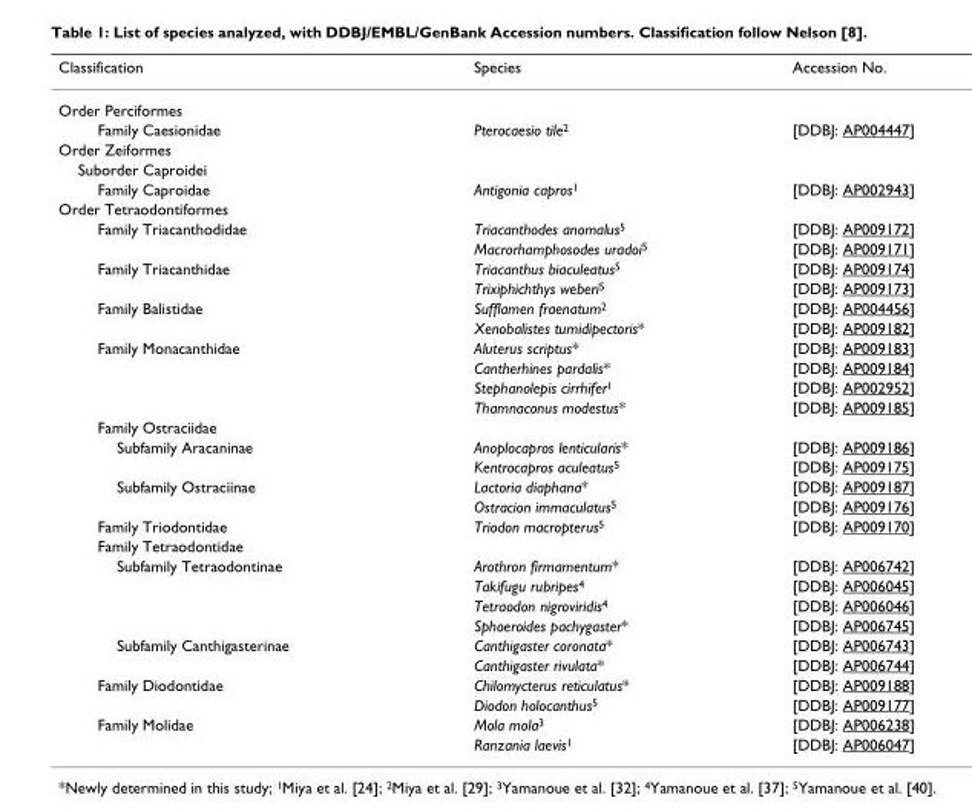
<table><thead><tr><td>Classification</td><td>Species</td><td>Accession No.</td></tr></thead><tbody><tr><td colspan="3">Order Perciformes</td></tr><tr><td>Family Caesionidae</td><td>Pterocaesio tile<sup>2</sup></td><td>[DDBJ: AP004447]</td></tr><tr><td colspan="3">Order Zeiformes</td></tr><tr><td colspan="3">Suborder Caproidei</td></tr><tr><td>Family Caproidae</td><td>Antigonia capros<sup>1</sup></td><td>[DDBJ: AP002943]</td></tr><tr><td colspan="3">Order Tetraodontiformes</td></tr><tr><td rowspan="2">Family Triacanthodidae</td><td>Triacanthodes anomalus<sup>5</sup></td><td>[DDBJ: AP009172]</td></tr><tr><td>Macrorhamphosodes uradoi<sup>5</sup></td><td>[DDBJ: AP009171]</td></tr><tr><td rowspan="2">Family Triacanthidae</td><td>Triacanthus biaculeatus<sup>5</sup></td><td>[DDBJ: AP009174]</td></tr><tr><td>Trixiphichthys weberi<sup>5</sup></td><td>[DDBJ: AP009173]</td></tr><tr><td rowspan="2">Family Balistidae</td><td>Sufflamen fraenatum<sup>2</sup></td><td>[DDBJ: AP004456]</td></tr><tr><td>Xenobalistes tumidipectoris*</td><td>[DDBJ: AP009182]</td></tr><tr><td rowspan="4">Family Monacanthidae</td><td>Aluterus scriptus*</td><td>[DDBJ: AP009183]</td></tr><tr><td>Cantherhines pardalis*</td><td>[DDBJ: AP009184]</td></tr><tr><td>Stephanolepis cirrhifer<sup>1</sup></td><td>[DDBJ: AP002952]</td></tr><tr><td>Thamnaconus modestus*</td><td>[DDBJ: AP009185]</td></tr><tr><td colspan="3">Family Ostraciidae</td></tr><tr><td rowspan="2">Subfamily Aracaninae</td><td>Anoplocapros lenticularis*</td><td>[DDBJ: AP009186]</td></tr><tr><td>Kentrocapros aculeatus<sup>5</sup></td><td>[DDBJ: AP009175]</td></tr><tr><td rowspan="2">Subfamily Ostraciinae</td><td>Lactoria diaphana*</td><td>[DDBJ: AP009187]</td></tr><tr><td>Ostracion immaculatus<sup>5</sup></td><td>[DDBJ: AP009176]</td></tr><tr><td>Family Triodontidae</td><td>Triodon macropterus<sup>5</sup></td><td>[DDBJ: AP009170]</td></tr><tr><td colspan="3">Family Tetraodontidae</td></tr><tr><td rowspan="4">Subfamily Tetraodontinae</td><td>Arothron firmamentum*</td><td>[DDBJ: AP006742]</td></tr><tr><td>Takifugu rubripes<sup>4</sup></td><td>[DDBJ: AP006045]</td></tr><tr><td>Tetraodon nigroviridis<sup>4</sup></td><td>[DDBJ: AP006046]</td></tr><tr><td>Sphoeroides pachygaster*</td><td>[DDBJ: AP006745]</td></tr><tr><td rowspan="2">Subfamily Canthigasterinae</td><td>Canthigaster coronata*</td><td>[DDBJ: AP006743]</td></tr><tr><td>Canthigaster rivulata*</td><td>[DDBJ: AP006744]</td></tr><tr><td rowspan="2">Family Diodontidae</td><td>Chilomycterus reticulatus*</td><td>[DDBJ: AP009188]</td></tr><tr><td>Diodon holocanthus<sup>5</sup></td><td>[DDBJ: AP009177]</td></tr><tr><td rowspan="2">Family Molidae</td><td>Mola mola<sup>3</sup></td><td>[DDBJ: AP006238]</td></tr><tr><td>Ranzania laevis<sup>1</sup></td><td>[DDBJ: AP006047]</td></tr></tbody></table>